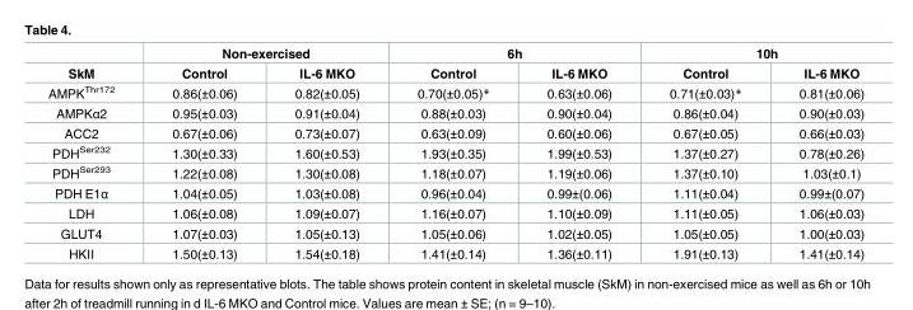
<table><thead><tr><td rowspan="2">SkM</td><td colspan="2">Non-exercised</td><td colspan="2">6h</td><td colspan="2">10h</td></tr><tr><td>Control</td><td>IL-6 MKO</td><td>Control</td><td>IL-6 MKO</td><td>Control</td><td>IL-6 MKO</td></tr></thead><tbody><tr><td>AMPK<sup>Thr172</sup></td><td>0.86(±0.06)</td><td>0.82(±0.05)</td><td>0.70(±0.05)*</td><td>0.63(±0.06)</td><td>0.71(±0.03)*</td><td>0.81(±0.06)</td></tr><tr><td>AMPKα2</td><td>0.95(±0.03)</td><td>0.91(±0.04)</td><td>0.88(±0.03)</td><td>0.90(±0.04)</td><td>0.86(±0.04)</td><td>0.90(±0.03)</td></tr><tr><td>ACC2</td><td>0.67(±0.06)</td><td>0.73(±0.07)</td><td>0.63(±0.09)</td><td>0.60(±0.06)</td><td>0.67(±0.05)</td><td>0.66(±0.03)</td></tr><tr><td>PDH<sup>Ser232</sup></td><td>1.30(±0.33)</td><td>1.60(±0.53)</td><td>1.93(±0.35)</td><td>1.99(±0.53)</td><td>1.37(±0.27)</td><td>0.78(±0.26)</td></tr><tr><td>PDH<sup>Ser293</sup></td><td>1.22(±0.08)</td><td>1.30(±0.08)</td><td>1.18(±0.07)</td><td>1.19(±0.06)</td><td>1.37(±0.10)</td><td>1.03(±0.1)</td></tr><tr><td>PDH E1α</td><td>1.04(±0.05)</td><td>1.03(±0.08)</td><td>0.96(±0.04)</td><td>0.99±(0.06)</td><td>1.11(±0.04)</td><td>0.99±(0.07)</td></tr><tr><td>LDH</td><td>1.06(±0.08)</td><td>1.09(±0.07)</td><td>1.16(±0.07)</td><td>1.10(±0.09)</td><td>1.11(±0.05)</td><td>1.06(±0.03)</td></tr><tr><td>GLUT4</td><td>1.07(±0.03)</td><td>1.05(±0.13)</td><td>1.05(±0.06)</td><td>1.02(±0.05)</td><td>1.05(±0.05)</td><td>1.00(±0.03)</td></tr><tr><td>HKII</td><td>1.50(±0.13)</td><td>1.54(±0.18)</td><td>1.41(±0.14)</td><td>1.36(±0.11)</td><td>1.91(±0.13)</td><td>1.41(±0.14)</td></tr></tbody></table>